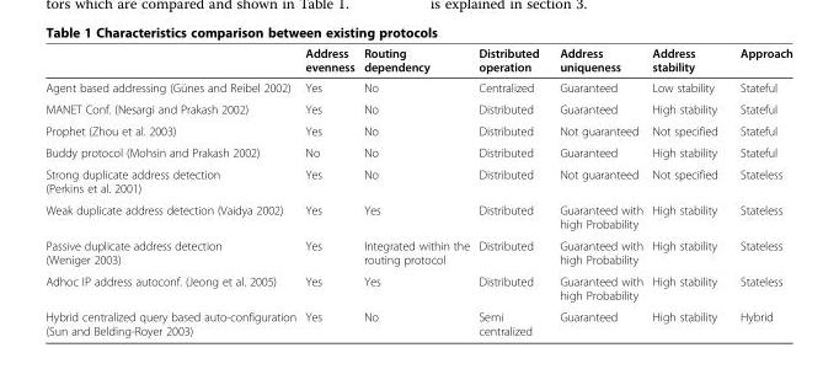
<table><thead><tr><td></td><td>Address evenness</td><td>Routing dependency</td><td>Distributed operation</td><td>Address uniqueness</td><td>Address stability</td><td>Approach</td></tr></thead><tbody><tr><td>Agent based addressing (Günes and Reibel 2002)</td><td>Yes</td><td>No</td><td>Centralized</td><td>Guaranteed</td><td>Low stability</td><td>Stateful</td></tr><tr><td>MANET Conf. (Nesargi and Prakash 2002)</td><td>Yes</td><td>No</td><td>Distributed</td><td>Guaranteed</td><td>High stability</td><td>Stateful</td></tr><tr><td>Prophet (Zhou et al. 2003)</td><td>Yes</td><td>No</td><td>Distributed</td><td>Not guaranteed</td><td>Not specified</td><td>Stateful</td></tr><tr><td>Buddy protocol (Mohsin and Prakash 2002)</td><td>No</td><td>No</td><td>Distributed</td><td>Guaranteed</td><td>High stability</td><td>Stateful</td></tr><tr><td>Strong duplicate address detection (Perkins et al. 2001)</td><td>Yes</td><td>No</td><td>Distributed</td><td>Not guaranteed</td><td>Not specified</td><td>Stateless</td></tr><tr><td>Weak duplicate address detection (Vaidya 2002)</td><td>Yes</td><td>Yes</td><td>Distributed</td><td>Guaranteed with high Probability</td><td>High stability</td><td>Stateless</td></tr><tr><td>Passive duplicate address detection (Weniger 2003)</td><td>Yes</td><td>Integrated within the routing protocol</td><td>Distributed</td><td>Guaranteed with high Probability</td><td>High stability</td><td>Stateless</td></tr><tr><td>Adhoc IP address autoconf. (Jeong et al. 2005)</td><td>Yes</td><td>Yes</td><td>Distributed</td><td>Guaranteed with high Probability</td><td>High stability</td><td>Stateless</td></tr><tr><td>Hybrid centralized query based auto-configuration (Sun and Belding-Royer 2003)</td><td>Yes</td><td>No</td><td>Semi centralized</td><td>Guaranteed</td><td>High stability</td><td>Hybrid</td></tr></tbody></table>